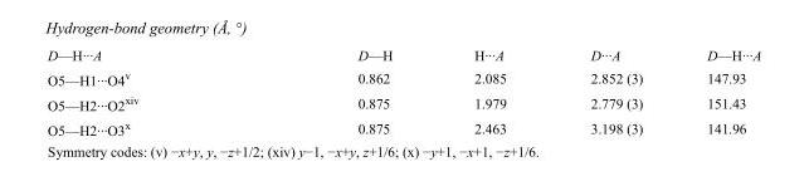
<table><tbody><tr><td>D—H···A</td><td>D—H</td><td>H···A</td><td>D···A</td><td>D—H···A</td></tr><tr><td>O5—H1···O4<sup>v</sup></td><td>0.862</td><td>2.085</td><td>2.852 (3)</td><td>147.93</td></tr><tr><td>O5—H2···O2<sup>xiv</sup></td><td>0.875</td><td>1.979</td><td>2.779 (3)</td><td>151.43</td></tr><tr><td>O5—H2···O3<sup>x</sup></td><td>0.875</td><td>2.463</td><td>3.198 (3)</td><td>141.96</td></tr></tbody></table>